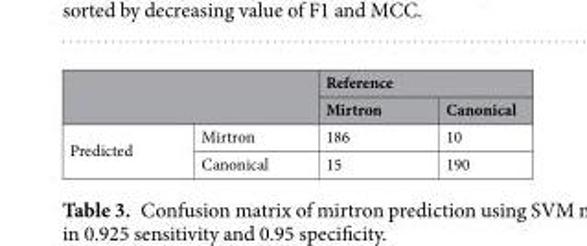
<table><thead><tr><td rowspan="2"></td><td rowspan="2"></td><td colspan="2">Reference</td></tr><tr><td>Mirtron</td><td>Canonical</td></tr></thead><tbody><tr><td rowspan="2">Predicted</td><td>Mirtron</td><td>186</td><td>10</td></tr><tr><td>Canonical</td><td>15</td><td>190</td></tr></tbody></table>